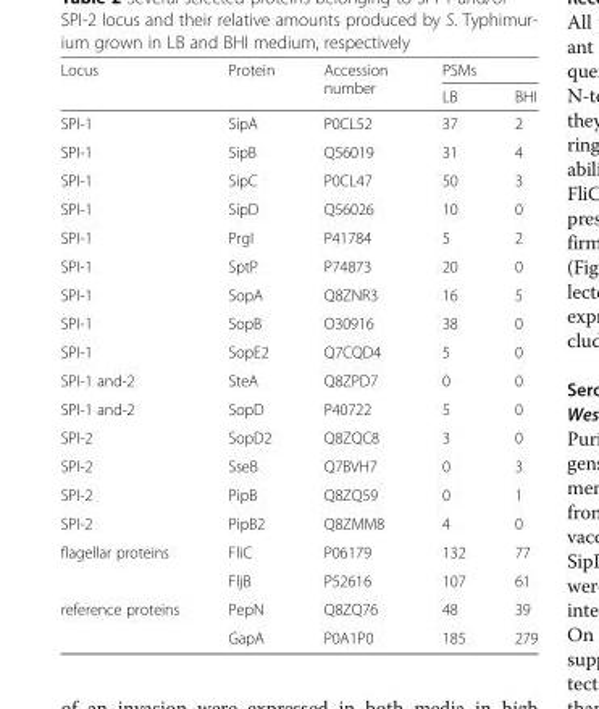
<table><thead><tr><td rowspan="2">Locus</td><td rowspan="2">Protein</td><td rowspan="2">Accession number</td><td colspan="2">PSMs</td></tr><tr><td>LB</td><td>BHI</td></tr></thead><tbody><tr><td>SPI-1</td><td>SipA</td><td>P0CL52</td><td>37</td><td>2</td></tr><tr><td>SPI-1</td><td>SipB</td><td>Q56019</td><td>31</td><td>4</td></tr><tr><td>SPI-1</td><td>SipC</td><td>P0CL47</td><td>50</td><td>3</td></tr><tr><td>SPI-1</td><td>SipD</td><td>Q56026</td><td>10</td><td>0</td></tr><tr><td>SPI-1</td><td>PrgI</td><td>P41784</td><td>5</td><td>2</td></tr><tr><td>SPI-1</td><td>SptP</td><td>P74873</td><td>20</td><td>0</td></tr><tr><td>SPI-1</td><td>SopA</td><td>Q8ZNR3</td><td>16</td><td>5</td></tr><tr><td>SPI-1</td><td>SopB</td><td>O30916</td><td>38</td><td>0</td></tr><tr><td>SPI-1</td><td>SopE2</td><td>Q7CQD4</td><td>5</td><td>0</td></tr><tr><td>SPI-1 and-2</td><td>SteA</td><td>Q8ZPD7</td><td>0</td><td>0</td></tr><tr><td>SPI-1 and-2</td><td>SopD</td><td>P40722</td><td>5</td><td>0</td></tr><tr><td>SPI-2</td><td>SopD2</td><td>Q8ZQC8</td><td>3</td><td>0</td></tr><tr><td>SPI-2</td><td>SseB</td><td>Q7BVH7</td><td>0</td><td>3</td></tr><tr><td>SPI-2</td><td>PipB</td><td>Q8ZQ59</td><td>0</td><td>1</td></tr><tr><td>SPI-2</td><td>PipB2</td><td>Q8ZMM8</td><td>4</td><td>0</td></tr><tr><td rowspan="2">flagellar proteins</td><td>FliC</td><td>P06179</td><td>132</td><td>77</td></tr><tr><td>FljB</td><td>P52616</td><td>107</td><td>61</td></tr><tr><td rowspan="2">reference proteins</td><td>PepN</td><td>Q8ZQ76</td><td>48</td><td>39</td></tr><tr><td>GapA</td><td>P0A1P0</td><td>185</td><td>279</td></tr></tbody></table>